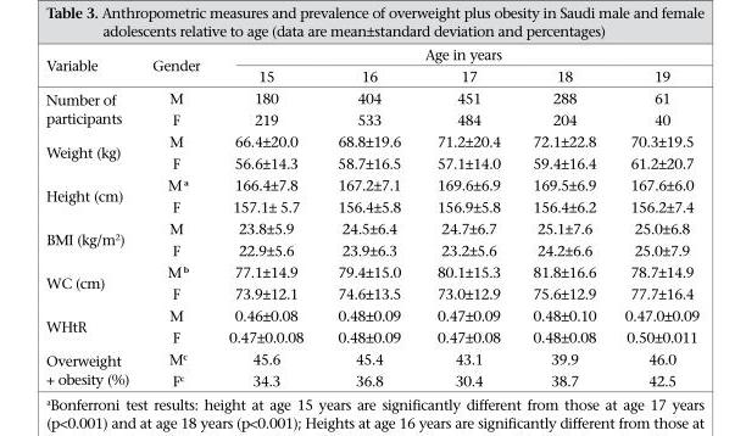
<table><thead><tr><td rowspan="2">Variable</td><td rowspan="2">Gender</td><td colspan="5">Age in years</td></tr><tr><td>15</td><td>16</td><td>17</td><td>18</td><td>19</td></tr></thead><tbody><tr><td rowspan="2">Number of participants</td><td>M</td><td>180</td><td>404</td><td>451</td><td>288</td><td>61</td></tr><tr><td>F</td><td>219</td><td>533</td><td>484</td><td>204</td><td>40</td></tr><tr><td rowspan="2">Weight (kg)</td><td>M</td><td>66.4±20.0</td><td>68.8±19.6</td><td>71.2±20.4</td><td>72.1±22.8</td><td>70.3±19.5</td></tr><tr><td>F</td><td>56.6±14.3</td><td>58.7±16.5</td><td>57.1±14.0</td><td>59.4±16.4</td><td>61.2±20.7</td></tr><tr><td rowspan="2">Height (cm)</td><td>M <sup>a</sup></td><td>166.4±7.8</td><td>167.2±7.1</td><td>169.6±6.9</td><td>169.5±6.9</td><td>167.6±6.0</td></tr><tr><td>F</td><td>157.1± 5.7</td><td>156.4±5.8</td><td>156.9±5.8</td><td>156.4±6.2</td><td>156.2±7.4</td></tr><tr><td rowspan="2">BMI (kg/m<sup>2</sup>)</td><td>M</td><td>23.8±5.9</td><td>24.5±6.4</td><td>24.7±6.7</td><td>25.1±7.6</td><td>25.0±6.8</td></tr><tr><td>F</td><td>22.9±5.6</td><td>23.9±6.3</td><td>23.2±5.6</td><td>24.2±6.6</td><td>25.0±7.9</td></tr><tr><td rowspan="2">WC (cm)</td><td>M <sup>b</sup></td><td>77.1±14.9</td><td>79.4±15.0</td><td>80.1±15.3</td><td>81.8±16.6</td><td>78.7±14.9</td></tr><tr><td>F</td><td>73.9±12.1</td><td>74.6±13.5</td><td>73.0±12.9</td><td>75.6±12.9</td><td>77.7±16.4</td></tr><tr><td rowspan="2">WHtR</td><td>M</td><td>0.46±0.08</td><td>0.48±0.09</td><td>0.47±0.09</td><td>0.48±0.10</td><td>0.47.0±0.09</td></tr><tr><td>F</td><td>0.47±0.0.08</td><td>0.48±0.09</td><td>0.47±0.08</td><td>0.48±0.08</td><td>0.50±0.011</td></tr><tr><td rowspan="2">Overweight + obesity (%)</td><td>M<sup>c</sup></td><td>45.6</td><td>45.4</td><td>43.1</td><td>39.9</td><td>46.0</td></tr><tr><td>F<sup>c</sup></td><td>34.3</td><td>36.8</td><td>30.4</td><td>38.7</td><td>42.5</td></tr></tbody></table>